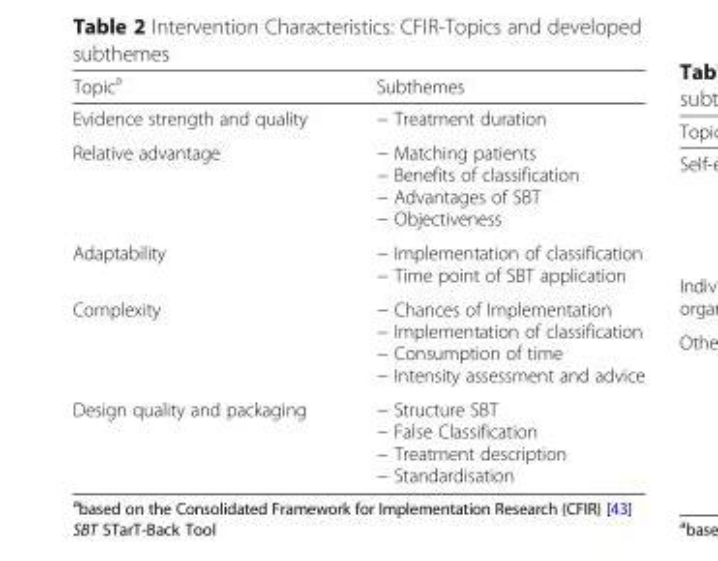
<table><thead><tr><td>Topic<sup>a</sup></td><td>Subthemes</td></tr></thead><tbody><tr><td>Evidence strength and quality</td><td>− Treatment duration</td></tr><tr><td>Relative advantage</td><td>− Matching patients − Benefits of classification − Advantages of SBT − Objectiveness</td></tr><tr><td>Adaptability</td><td>− Implementation of classification − Time point of SBT application</td></tr><tr><td>Complexity</td><td>− Chances of Implementation − Implementation of classification − Consumption of time − Intensity assessment and advice</td></tr><tr><td>Design quality and packaging</td><td>− Structure SBT − False Classification − Treatment description − Standardisation</td></tr></tbody></table>